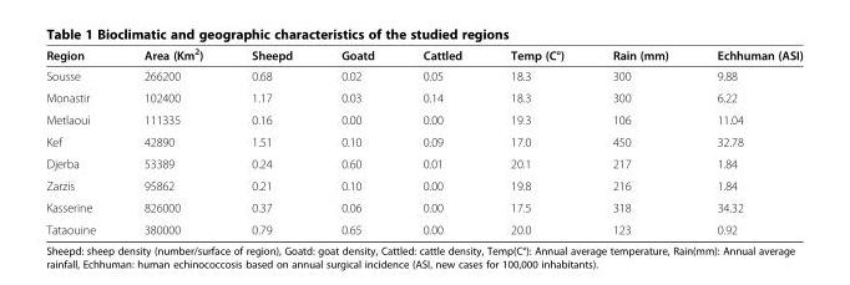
<table><thead><tr><td>Region</td><td>Area (Km<sup>2</sup>)</td><td>Sheepd</td><td>Goatd</td><td>Cattled</td><td>Temp (C°)</td><td>Rain (mm)</td><td>Echhuman (ASI)</td></tr></thead><tbody><tr><td>Sousse</td><td>266200</td><td>0.68</td><td>0.02</td><td>0.05</td><td>18.3</td><td>300</td><td>9.88</td></tr><tr><td>Monastir</td><td>102400</td><td>1.17</td><td>0.03</td><td>0.14</td><td>18.3</td><td>300</td><td>6.22</td></tr><tr><td>Metlaoui</td><td>111335</td><td>0.16</td><td>0.00</td><td>0.00</td><td>19.3</td><td>106</td><td>11.04</td></tr><tr><td>Kef</td><td>42890</td><td>1.51</td><td>0.10</td><td>0.09</td><td>17.0</td><td>450</td><td>32.78</td></tr><tr><td>Djerba</td><td>53389</td><td>0.24</td><td>0.60</td><td>0.01</td><td>20.1</td><td>217</td><td>1.84</td></tr><tr><td>Zarzis</td><td>95862</td><td>0.21</td><td>0.10</td><td>0.00</td><td>19.8</td><td>216</td><td>1.84</td></tr><tr><td>Kasserine</td><td>826000</td><td>0.37</td><td>0.06</td><td>0.00</td><td>17.5</td><td>318</td><td>34.32</td></tr><tr><td>Tataouine</td><td>380000</td><td>0.79</td><td>0.65</td><td>0.00</td><td>20.0</td><td>123</td><td>0.92</td></tr></tbody></table>